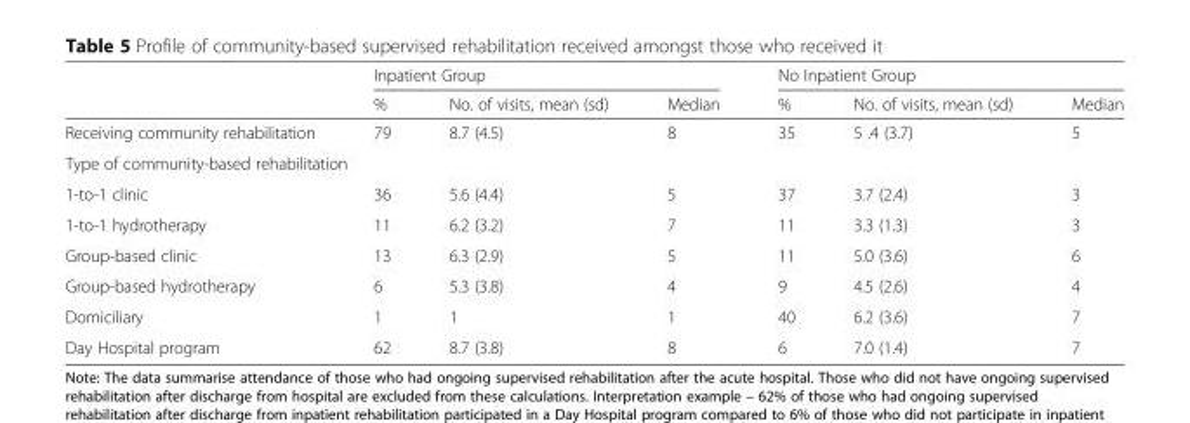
<table><thead><tr><td rowspan="2"></td><td colspan="3">Inpatient Group</td><td colspan="3">No Inpatient Group</td></tr><tr><td>%</td><td>No. of visits, mean (sd)</td><td>Median</td><td>%</td><td>No. of visits, mean (sd)</td><td>Median</td></tr></thead><tbody><tr><td>Receiving community rehabilitation</td><td>79</td><td>8.7 (4.5)</td><td>8</td><td>35</td><td>5 .4 (3.7)</td><td>5</td></tr><tr><td colspan="7">Type of community-based rehabilitation</td></tr><tr><td>1-to-1 clinic</td><td>36</td><td>5.6 (4.4)</td><td>5</td><td>37</td><td>3.7 (2.4)</td><td>3</td></tr><tr><td>1-to-1 hydrotherapy</td><td>11</td><td>6.2 (3.2)</td><td>7</td><td>11</td><td>3.3 (1.3)</td><td>3</td></tr><tr><td>Group-based clinic</td><td>13</td><td>6.3 (2.9)</td><td>5</td><td>11</td><td>5.0 (3.6)</td><td>6</td></tr><tr><td>Group-based hydrotherapy</td><td>6</td><td>5.3 (3.8)</td><td>4</td><td>9</td><td>4.5 (2.6)</td><td>4</td></tr><tr><td>Domiciliary</td><td>1</td><td>1</td><td>1</td><td>40</td><td>6.2 (3.6)</td><td>7</td></tr><tr><td>Day Hospital program</td><td>62</td><td>8.7 (3.8)</td><td>8</td><td>6</td><td>7.0 (1.4)</td><td>7</td></tr></tbody></table>